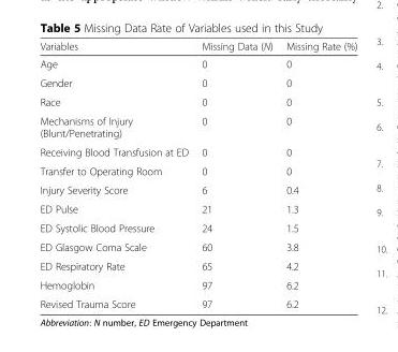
<table><thead><tr><td>Variables</td><td>Missing Data (N)</td><td>Missing Rate (%)</td></tr></thead><tbody><tr><td>Age</td><td>0</td><td>0</td></tr><tr><td>Gender</td><td>0</td><td>0</td></tr><tr><td>Race</td><td>0</td><td>0</td></tr><tr><td>Mechanisms of Injury (Blunt/Penetrating)</td><td>0</td><td>0</td></tr><tr><td>Receiving Blood Transfusion at ED</td><td>0</td><td>0</td></tr><tr><td>Transfer to Operating Room</td><td>0</td><td>0</td></tr><tr><td>Injury Severity Score</td><td>6</td><td>0.4</td></tr><tr><td>ED Pulse</td><td>21</td><td>1.3</td></tr><tr><td>ED Systolic Blood Pressure</td><td>24</td><td>1.5</td></tr><tr><td>ED Glasgow Coma Scale</td><td>60</td><td>3.8</td></tr><tr><td>ED Respiratory Rate</td><td>65</td><td>4.2</td></tr><tr><td>Hemoglobin</td><td>97</td><td>6.2</td></tr><tr><td>Revised Trauma Score</td><td>97</td><td>6.2</td></tr></tbody></table>